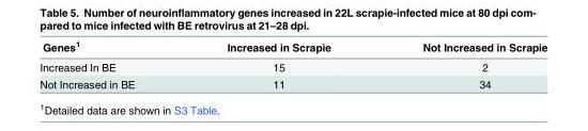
<table><thead><tr><td>Genes<sup>1</sup></td><td>Increased in Scrapie</td><td>Not Increased in Scrapie</td></tr></thead><tbody><tr><td>Increased In BE</td><td>15</td><td>2</td></tr><tr><td>Not Increased in BE</td><td>11</td><td>34</td></tr></tbody></table>